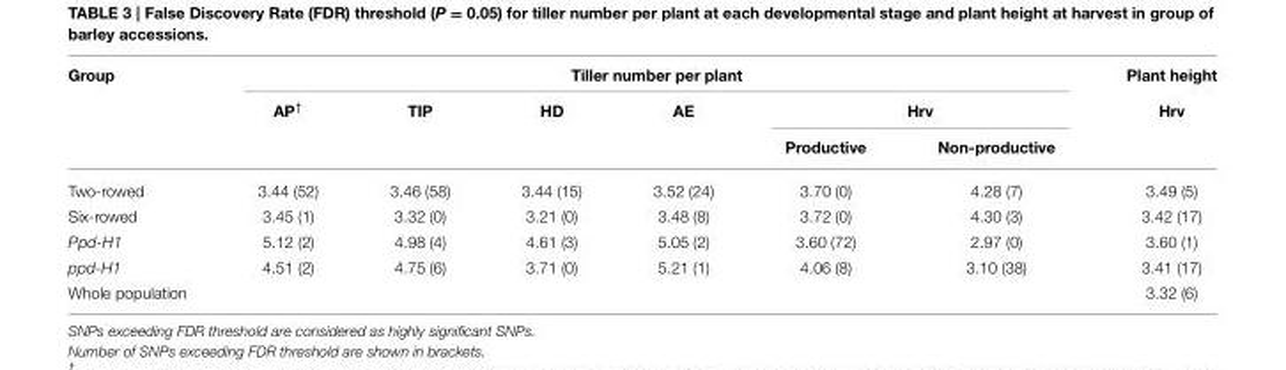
<table><thead><tr><td rowspan="3">Group</td><td colspan="6">Tiller number per plant</td><td rowspan="3">Plant height Hrv</td></tr><tr><td rowspan="2">AP<sup>†</sup></td><td rowspan="2">TIP</td><td rowspan="2">HD</td><td rowspan="2">AE</td><td colspan="2">Hrv</td></tr><tr><td>Productive</td><td>Non-productive</td></tr></thead><tbody><tr><td>Two-rowed</td><td>3.44 (52)</td><td>3.46 (58)</td><td>3.44 (15)</td><td>3.52 (24)</td><td>3.70 (0)</td><td>4.28 (7)</td><td>3.49 (5)</td></tr><tr><td>Six-rowed</td><td>3.45 (1)</td><td>3.32 (0)</td><td>3.21 (0)</td><td>3.48 (8)</td><td>3.72 (0)</td><td>4.30 (3)</td><td>3.42 (17)</td></tr><tr><td>Ppd-H1</td><td>5.12 (2)</td><td>4.98 (4)</td><td>4.61 (3)</td><td>5.05 (2)</td><td>3.60 (72)</td><td>2.97 (0)</td><td>3.60 (1)</td></tr><tr><td>ppd-H1</td><td>4.51 (2)</td><td>4.75 (6)</td><td>3.71 (0)</td><td>5.21 (1)</td><td>4.06 (8)</td><td>3.10 (38)</td><td>3.41 (17)</td></tr><tr><td>Whole population</td><td></td><td></td><td></td><td></td><td></td><td></td><td>3.32 (6)</td></tr></tbody></table>